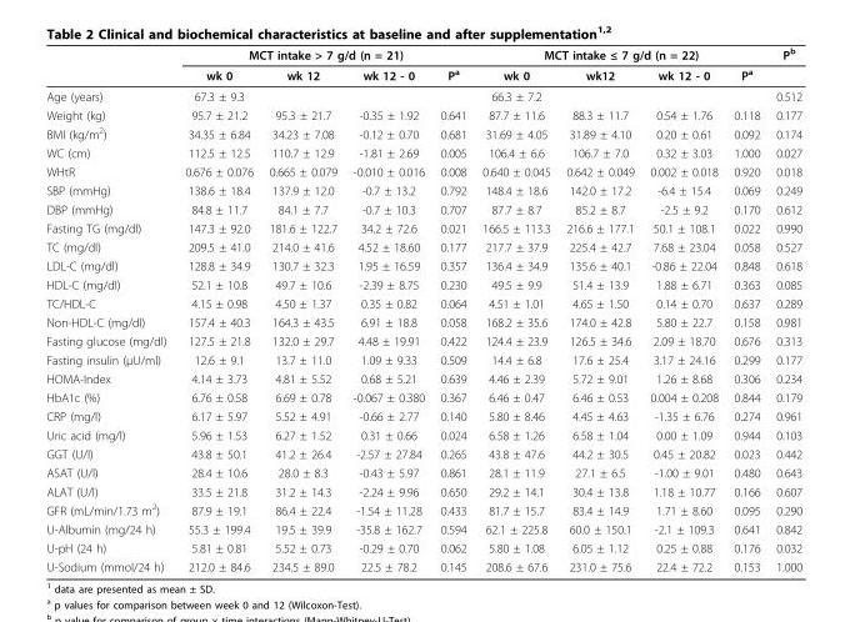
<table><thead><tr><td rowspan="2"></td><td colspan="4">MCT intake &gt; 7 g/d (n = 21)</td><td colspan="4">MCT intake ≤ 7 g/d (n = 22)</td><td rowspan="2">P<sup>b</sup></td></tr><tr><td>wk 0</td><td>wk 12</td><td>wk 12 - 0</td><td>P<sup>a</sup></td><td>wk 0</td><td>wk12</td><td>wk 12 - 0</td><td>P<sup>a</sup></td></tr></thead><tbody><tr><td>Age (years)</td><td>67.3 ± 9.3</td><td></td><td></td><td></td><td>66.3 ± 7.2</td><td></td><td></td><td></td><td>0.512</td></tr><tr><td>Weight (kg)</td><td>95.7 ± 21.2</td><td>95.3 ± 21.7</td><td>-0.35 ± 1.92</td><td>0.641</td><td>87.7 ± 11.6</td><td>88.3 ± 11.7</td><td>0.54 ± 1.76</td><td>0.118</td><td>0.177</td></tr><tr><td>BMI (kg/m<sup>2</sup>)</td><td>34.35 ± 6.84</td><td>34.23 ± 7.08</td><td>-0.12 ± 0.70</td><td>0.681</td><td>31.69 ± 4.05</td><td>31.89 ± 4.10</td><td>0.20 ± 0.61</td><td>0.092</td><td>0.174</td></tr><tr><td>WC (cm)</td><td>112.5 ± 12.5</td><td>110.7 ± 12.9</td><td>-1.81 ± 2.69</td><td>0.005</td><td>106.4 ± 6.6</td><td>106.7 ± 7.0</td><td>0.32 ± 3.03</td><td>1.000</td><td>0.027</td></tr><tr><td>WHtR</td><td>0.676 ± 0.076</td><td>0.665 ± 0.079</td><td>-0.010 ± 0.016</td><td>0.008</td><td>0.640 ± 0.045</td><td>0.642 ± 0.049</td><td>0.002 ± 0.018</td><td>0.920</td><td>0.018</td></tr><tr><td>SBP (mmHg)</td><td>138.6 ± 18.4</td><td>137.9 ± 12.0</td><td>-0.7 ± 13.2</td><td>0.792</td><td>148.4 ± 18.6</td><td>142.0 ± 17.2</td><td>-6.4 ± 15.4</td><td>0.069</td><td>0.249</td></tr><tr><td>DBP (mmHg)</td><td>84.8 ± 11.7</td><td>84.1 ± 7.7</td><td>-0.7 ± 10.3</td><td>0.707</td><td>87.7 ± 8.7</td><td>85.2 ± 8.7</td><td>-2.5 ± 9.2</td><td>0.170</td><td>0.612</td></tr><tr><td>Fasting TG (mg/dl)</td><td>147.3 ± 92.0</td><td>181.6 ± 122.7</td><td>34.2 ± 72.6</td><td>0.021</td><td>166.5 ± 113.3</td><td>216.6 ± 177.1</td><td>50.1 ± 108.1</td><td>0.022</td><td>0.990</td></tr><tr><td>TC (mg/dl)</td><td>209.5 ± 41.0</td><td>214.0 ± 41.6</td><td>4.52 ± 18.60</td><td>0.177</td><td>217.7 ± 37.9</td><td>225.4 ± 42.7</td><td>7.68 ± 23.04</td><td>0.058</td><td>0.527</td></tr><tr><td>LDL-C (mg/dl)</td><td>128.8 ± 34.9</td><td>130.7 ± 32.3</td><td>1.95 ± 16.59</td><td>0.357</td><td>136.4 ± 34.9</td><td>135.6 ± 40.1</td><td>-0.86 ± 22.04</td><td>0.848</td><td>0.618</td></tr><tr><td>HDL-C (mg/dl)</td><td>52.1 ± 10.8</td><td>49.7 ± 10.6</td><td>-2.39 ± 8.75</td><td>0.230</td><td>49.5 ± 9.9</td><td>51.4 ± 13.9</td><td>1.88 ± 6.71</td><td>0.363</td><td>0.085</td></tr><tr><td>TC/HDL-C</td><td>4.15 ± 0.98</td><td>4.50 ± 1.37</td><td>0.35 ± 0.82</td><td>0.064</td><td>4.51 ± 1.01</td><td>4.65 ± 1.50</td><td>0.14 ± 0.70</td><td>0.637</td><td>0.289</td></tr><tr><td>Non-HDL-C (mg/dl)</td><td>157.4 ± 40.3</td><td>164.3 ± 43.5</td><td>6.91 ± 18.8</td><td>0.058</td><td>168.2 ± 35.6</td><td>174.0 ± 42.8</td><td>5.80 ± 22.7</td><td>0.158</td><td>0.981</td></tr><tr><td>Fasting glucose (mg/dl)</td><td>127.5 ± 21.8</td><td>132.0 ± 29.7</td><td>4.48 ± 19.91</td><td>0.422</td><td>124.4 ± 23.9</td><td>126.5 ± 34.6</td><td>2.09 ± 18.70</td><td>0.676</td><td>0.313</td></tr><tr><td>Fasting insulin (μU/ml)</td><td>12.6 ± 9.1</td><td>13.7 ± 11.0</td><td>1.09 ± 9.33</td><td>0.509</td><td>14.4 ± 6.8</td><td>17.6 ± 25.4</td><td>3.17 ± 24.16</td><td>0.299</td><td>0.177</td></tr><tr><td>HOMA-Index</td><td>4.14 ± 3.73</td><td>4.81 ± 5.52</td><td>0.68 ± 5.21</td><td>0.639</td><td>4.46 ± 2.39</td><td>5.72 ± 9.01</td><td>1.26 ± 8.68</td><td>0.306</td><td>0.234</td></tr><tr><td>HbA1c (%)</td><td>6.76 ± 0.58</td><td>6.69 ± 0.78</td><td>-0.067 ± 0.380</td><td>0.367</td><td>6.46 ± 0.47</td><td>6.46 ± 0.53</td><td>0.004 ± 0.208</td><td>0.844</td><td>0.179</td></tr><tr><td>CRP (mg/l)</td><td>6.17 ± 5.97</td><td>5.52 ± 4.91</td><td>-0.66 ± 2.77</td><td>0.140</td><td>5.80 ± 8.46</td><td>4.45 ± 4.63</td><td>-1.35 ± 6.76</td><td>0.274</td><td>0.961</td></tr><tr><td>Uric acid (mg/l)</td><td>5.96 ± 1.53</td><td>6.27 ± 1.52</td><td>0.31 ± 0.66</td><td>0.024</td><td>6.58 ± 1.26</td><td>6.58 ± 1.04</td><td>0.00 ± 1.09</td><td>0.944</td><td>0.103</td></tr><tr><td>GGT (U/l)</td><td>43.8 ± 50.1</td><td>41.2 ± 26.4</td><td>-2.57 ± 27.84</td><td>0.265</td><td>43.8 ± 47.6</td><td>44.2 ± 30.5</td><td>0.45 ± 20.82</td><td>0.023</td><td>0.442</td></tr><tr><td>ASAT (U/l)</td><td>28.4 ± 10.6</td><td>28.0 ± 8.3</td><td>-0.43 ± 5.97</td><td>0.861</td><td>28.1 ± 11.9</td><td>27.1 ± 6.5</td><td>-1.00 ± 9.01</td><td>0.480</td><td>0.643</td></tr><tr><td>ALAT (U/l)</td><td>33.5 ± 21.8</td><td>31.2 ± 14.3</td><td>-2.24 ± 9.96</td><td>0.650</td><td>29.2 ± 14.1</td><td>30.4 ± 13.8</td><td>1.18 ± 10.77</td><td>0.166</td><td>0.607</td></tr><tr><td>GFR (mL/min/1.73 m<sup>2</sup>)</td><td>87.9 ± 19.1</td><td>86.4 ± 22.4</td><td>-1.54 ± 11.28</td><td>0.433</td><td>81.7 ± 15.7</td><td>83.4 ± 14.9</td><td>1.71 ± 8.60</td><td>0.095</td><td>0.290</td></tr><tr><td>U-Albumin (mg/24 h)</td><td>55.3 ± 199.4</td><td>19.5 ± 39.9</td><td>-35.8 ± 162.7</td><td>0.594</td><td>62.1 ± 225.8</td><td>60.0 ± 150.1</td><td>-2.1 ± 109.3</td><td>0.641</td><td>0.842</td></tr><tr><td>U-pH (24 h)</td><td>5.81 ± 0.81</td><td>5.52 ± 0.73</td><td>-0.29 ± 0.70</td><td>0.062</td><td>5.80 ± 1.08</td><td>6.05 ± 1.12</td><td>0.25 ± 0.88</td><td>0.176</td><td>0.032</td></tr><tr><td>U-Sodium (mmol/24 h)</td><td>212.0 ± 84.6</td><td>234.5 ± 89.0</td><td>22.5 ± 78.2</td><td>0.145</td><td>208.6 ± 67.6</td><td>231.0 ± 75.6</td><td>22.4 ± 72.2</td><td>0.153</td><td>1.000</td></tr></tbody></table>